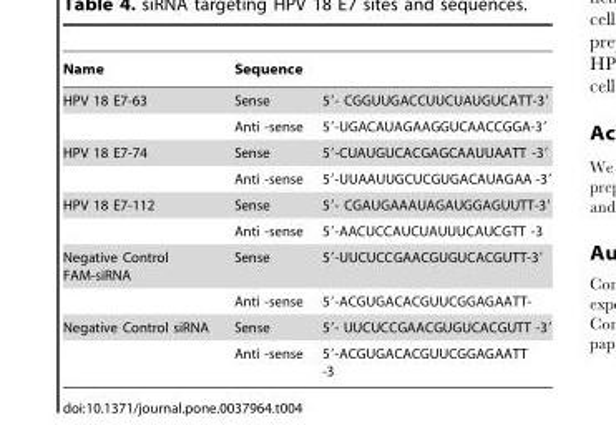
<table><thead><tr><td rowspan="2">Name HPV 18 E7-63</td><td colspan="2">Sequence</td></tr><tr><td>Sense</td><td>5′- CGGUUGACCUUCUAUGUCATT-3′</td></tr></thead><tbody><tr><td></td><td>Anti -sense</td><td>5′-UGACAUAGAAGGUCAACCGGA-3′</td></tr><tr><td rowspan="2">HPV 18 E7-74</td><td>Sense</td><td>5′-CUAUGUCACGAGCAAUUAATT -3′</td></tr><tr><td>Anti -sense</td><td>5′-UUAAUUGCUCGUGACAUAGAA -3′</td></tr><tr><td rowspan="2">HPV 18 E7-112</td><td>Sense</td><td>5′- CGAUGAAAUAGAUGGAGUUTT-3′</td></tr><tr><td>Anti -sense</td><td>5′-AACUCCAUCUAUUUCAUCGTT -3</td></tr><tr><td rowspan="2">Negative Control FAM-siRNA</td><td>Sense</td><td>5′-UUCUCCGAACGUGUCACGUTT-3′</td></tr><tr><td>Anti -sense</td><td>5′-ACGUGACACGUUCGGAGAATT-</td></tr><tr><td rowspan="2">Negative Control siRNA</td><td>Sense</td><td>5′- UUCUCCGAACGUGUCACGUTT -3′</td></tr><tr><td>Anti -sense</td><td>59-ACGUGACACGUUCGGAGAATT</td></tr></tbody></table>